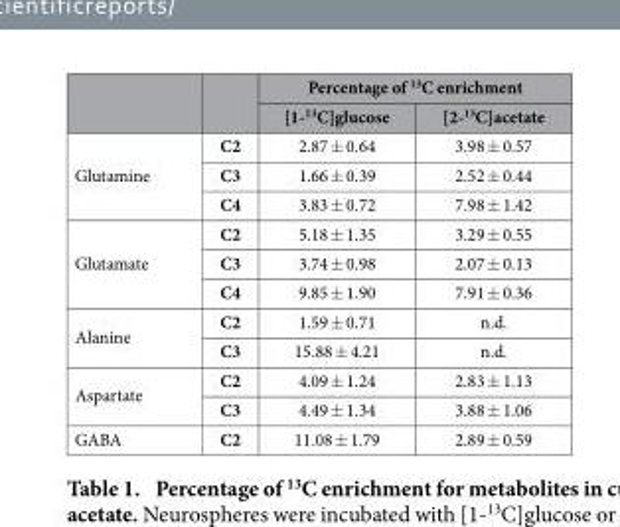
<table><thead><tr><td rowspan="2"></td><td rowspan="2"></td><td colspan="2">Percentage of <sup>13</sup>C enrichment</td></tr><tr><td>[1-<sup>13</sup>C]glucose</td><td>[2-<sup>13</sup>C]acetate</td></tr></thead><tbody><tr><td rowspan="3">Glutamine</td><td>C2</td><td>2.87 ± 0.64</td><td>3.98 ± 0.57</td></tr><tr><td>C3</td><td>1.66 ± 0.39</td><td>2.52 ± 0.44</td></tr><tr><td>C4</td><td>3.83 ± 0.72</td><td>7.98 ± 1.42</td></tr><tr><td rowspan="3">Glutamate</td><td>C2</td><td>5.18 ± 1.35</td><td>3.29 ± 0.55</td></tr><tr><td>C3</td><td>3.74 ± 0.98</td><td>2.07 ± 0.13</td></tr><tr><td>C4</td><td>9.85 ± 1.90</td><td>7.91 ± 0.36</td></tr><tr><td rowspan="2">Alanine</td><td>C2</td><td>1.59 ± 0.71</td><td>n.d.</td></tr><tr><td>C3</td><td>15.88 ± 4.21</td><td>n.d.</td></tr><tr><td rowspan="2">Aspartate</td><td>C2</td><td>4.09 ± 1.24</td><td>2.83 ± 1.13</td></tr><tr><td>C3</td><td>4.49 ± 1.34</td><td>3.88 ± 1.06</td></tr><tr><td>GABA</td><td>C2</td><td>11.08 ± 1.79</td><td>2.89 ± 0.59</td></tr></tbody></table>